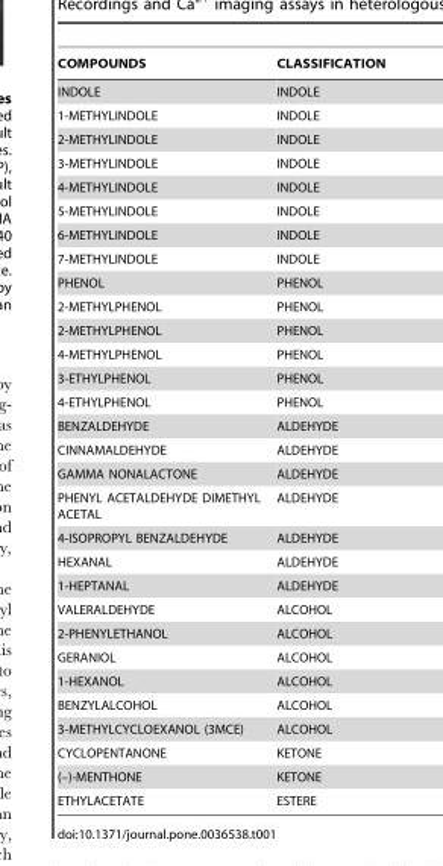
<table><thead><tr><td>COMPOUNDS</td><td>CLASSIFICATION</td></tr></thead><tbody><tr><td>INDOLE</td><td>INDOLE</td></tr><tr><td>1-METHYLINDOLE</td><td>INDOLE</td></tr><tr><td>2-METHYLINDOLE</td><td>INDOLE</td></tr><tr><td>3-METHYLINDOLE</td><td>INDOLE</td></tr><tr><td>4-METHYLINDOLE</td><td>INDOLE</td></tr><tr><td>5-METHYLINDOLE</td><td>INDOLE</td></tr><tr><td>6-METHYLINDOLE</td><td>INDOLE</td></tr><tr><td>7-METHYLINDOLE</td><td>INDOLE</td></tr><tr><td>PHENOL</td><td>PHENOL</td></tr><tr><td>2-METHYLPHENOL</td><td>PHENOL</td></tr><tr><td>2-METHYLPHENOL</td><td>PHENOL</td></tr><tr><td>4-METHYLPHENOL</td><td>PHENOL</td></tr><tr><td>3-ETHYLPHENOL</td><td>PHENOL</td></tr><tr><td>4-ETHYLPHENOL</td><td>PHENOL</td></tr><tr><td>BENZALDEHYDE</td><td>ALDEHYDE</td></tr><tr><td>CINNAMALDEHYDE</td><td>ALDEHYDE</td></tr><tr><td>GAMMA NONALACTONE</td><td>ALDEHYDE</td></tr><tr><td>PHENYL ACETALDEHYDE DIMETHYL ACETAL</td><td>ALDEHYDE</td></tr><tr><td>4-ISOPROPYL BENZALDEHYDE</td><td>ALDEHYDE</td></tr><tr><td>HEXANAL</td><td>ALDEHYDE</td></tr><tr><td>1-HEPTANAL</td><td>ALDEHYDE</td></tr><tr><td>VALERALDEHYDE</td><td>ALCOHOL</td></tr><tr><td>2-PHENYLETHANOL</td><td>ALCOHOL</td></tr><tr><td>GERANIOL</td><td>ALCOHOL</td></tr><tr><td>1-HEXANOL</td><td>ALCOHOL</td></tr><tr><td>BENZYLALCOHOL</td><td>ALCOHOL</td></tr><tr><td>3-METHYLCYCLOEXANOL (3MCE)</td><td>ALCOHOL</td></tr><tr><td>CYCLOPENTANONE</td><td>KETONE</td></tr><tr><td>(–)-MENTHONE</td><td>KETONE</td></tr><tr><td>ETHYLACETATE</td><td>ESTERE</td></tr></tbody></table>